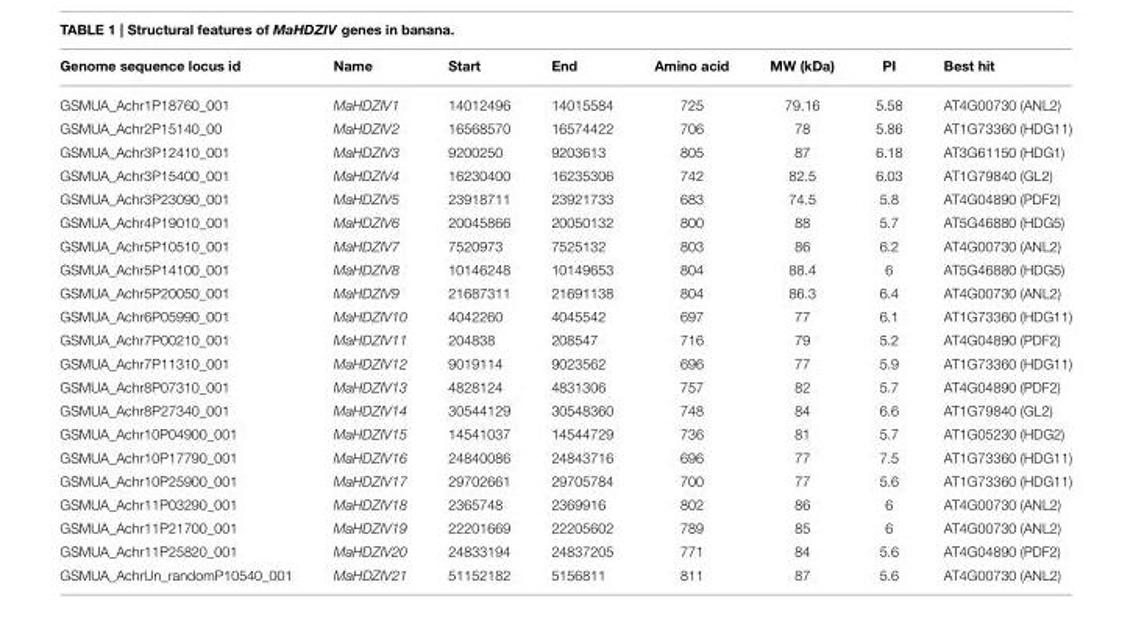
<table><thead><tr><td>Genome sequence locus id</td><td>Name</td><td>Start</td><td>End</td><td>Amino acid</td><td>MW (kDa)</td><td>PI</td><td>Best hit</td></tr></thead><tbody><tr><td>GSMUA_Achr1P18760_001</td><td>MaHDZIV1</td><td>14012496</td><td>14015584</td><td>725</td><td>79.16</td><td>5.58</td><td>AT4G00730 (ANL2)</td></tr><tr><td>GSMUA_Achr2P15140_00</td><td>MaHDZIV2</td><td>16568570</td><td>16574422</td><td>706</td><td>78</td><td>5.86</td><td>AT1G73360 (HDG11)</td></tr><tr><td>GSMUA_Achr3P12410_001</td><td>MaHDZIV3</td><td>9200250</td><td>9203613</td><td>805</td><td>87</td><td>6.18</td><td>AT3G61150 (HDG1)</td></tr><tr><td>GSMUA_Achr3P15400_001</td><td>MaHDZIV4</td><td>16230400</td><td>16235306</td><td>742</td><td>82.5</td><td>6.03</td><td>AT1G79840 (GL2)</td></tr><tr><td>GSMUA_Achr3P23090_001</td><td>MaHDZIV5</td><td>23918711</td><td>23921733</td><td>683</td><td>74.5</td><td>5.8</td><td>AT4G04890 (PDF2)</td></tr><tr><td>GSMUA_Achr4P19010_001</td><td>MaHDZIV6</td><td>20045866</td><td>20050132</td><td>800</td><td>88</td><td>5.7</td><td>AT5G46880 (HDG5)</td></tr><tr><td>GSMUA_Achr5P10510_001</td><td>MaHDZIV7</td><td>7520973</td><td>7525132</td><td>803</td><td>86</td><td>6.2</td><td>AT4G00730 (ANL2)</td></tr><tr><td>GSMUA_Achr5P14100_001</td><td>MaHDZIV8</td><td>10146248</td><td>10149653</td><td>804</td><td>88.4</td><td>6</td><td>AT5G46880 (HDG5)</td></tr><tr><td>GSMUA_Achr5P20050_001</td><td>MaHDZIV9</td><td>21687311</td><td>21691138</td><td>804</td><td>86.3</td><td>6.4</td><td>AT4G00730 (ANL2)</td></tr><tr><td>GSMUA_Achr6P05990_001</td><td>MaHDZIV10</td><td>4042260</td><td>4045542</td><td>697</td><td>77</td><td>6.1</td><td>AT1G73360 (HDG11)</td></tr><tr><td>GSMUA_Achr7P00210_001</td><td>MaHDZIV11</td><td>204838</td><td>208547</td><td>716</td><td>79</td><td>5.2</td><td>AT4G04890 (PDF2)</td></tr><tr><td>GSMUA_Achr7P11310_001</td><td>MaHDZIV12</td><td>9019114</td><td>9023562</td><td>696</td><td>77</td><td>5.9</td><td>AT1G73360 (HDG11)</td></tr><tr><td>GSMUA_Achr8P07310_001</td><td>MaHDZIV13</td><td>4828124</td><td>4831306</td><td>757</td><td>82</td><td>5.7</td><td>AT4G04890 (PDF2)</td></tr><tr><td>GSMUA_Achr8P27340_001</td><td>MaHDZIV14</td><td>30544129</td><td>30548360</td><td>748</td><td>84</td><td>6.6</td><td>AT1G79840 (GL2)</td></tr><tr><td>GSMUA_Achr10P04900_001</td><td>MaHDZIV15</td><td>14541037</td><td>14544729</td><td>736</td><td>81</td><td>5.7</td><td>AT1G05230 (HDG2)</td></tr><tr><td>GSMUA_Achr10P17790_001</td><td>MaHDZIV16</td><td>24840086</td><td>24843716</td><td>696</td><td>77</td><td>7.5</td><td>AT1G73360 (HDG11)</td></tr><tr><td>GSMUA_Achr10P25900_001</td><td>MaHDZIV17</td><td>29702661</td><td>29705784</td><td>700</td><td>77</td><td>5.6</td><td>AT1G73360 (HDG11)</td></tr><tr><td>GSMUA_Achr11P03290_001</td><td>MaHDZIV18</td><td>2365748</td><td>2369916</td><td>802</td><td>86</td><td>6</td><td>AT4G00730 (ANL2)</td></tr><tr><td>GSMUA_Achr11P21700_001</td><td>MaHDZIV19</td><td>22201669</td><td>22205602</td><td>789</td><td>85</td><td>6</td><td>AT4G00730 (ANL2)</td></tr><tr><td>GSMUA_Achr11P25820_001</td><td>MaHDZIV20</td><td>24833194</td><td>24837205</td><td>771</td><td>84</td><td>5.6</td><td>AT4G04890 (PDF2)</td></tr><tr><td>GSMUA_AchrUn_randomP10540_001</td><td>MaHDZIV21</td><td>51152182</td><td>5156811</td><td>811</td><td>87</td><td>5.6</td><td>AT4G00730 (ANL2)</td></tr></tbody></table>